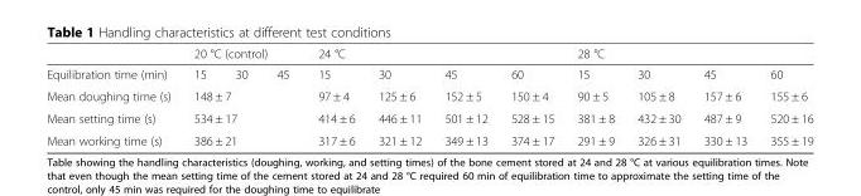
<table><thead><tr><td rowspan="2">Equilibration time (min)</td><td colspan="3">20 °C (control)</td><td colspan="4">24 °C</td><td colspan="4">28 °C</td></tr><tr><td>15</td><td>30</td><td>45</td><td>15</td><td>30</td><td>45</td><td>60</td><td>15</td><td>30</td><td>45</td><td>60</td></tr></thead><tbody><tr><td>Mean doughing time (s)</td><td colspan="3">148 ± 7</td><td>97 ± 4</td><td>125 ± 6</td><td>152 ± 5</td><td>150 ± 4</td><td>90 ± 5</td><td>105 ± 8</td><td>157 ± 6</td><td>155 ± 6</td></tr><tr><td>Mean setting time (s)</td><td colspan="3">534 ± 17</td><td>414 ± 6</td><td>446 ± 11</td><td>501 ± 12</td><td>528 ± 15</td><td>381 ± 8</td><td>432 ± 30</td><td>487 ± 9</td><td>520 ± 16</td></tr><tr><td>Mean working time (s)</td><td colspan="3">386 ± 21</td><td>317 ± 6</td><td>321 ± 12</td><td>349 ± 13</td><td>374 ± 17</td><td>291 ± 9</td><td>326 ± 31</td><td>330 ± 13</td><td>355 ± 19</td></tr></tbody></table>